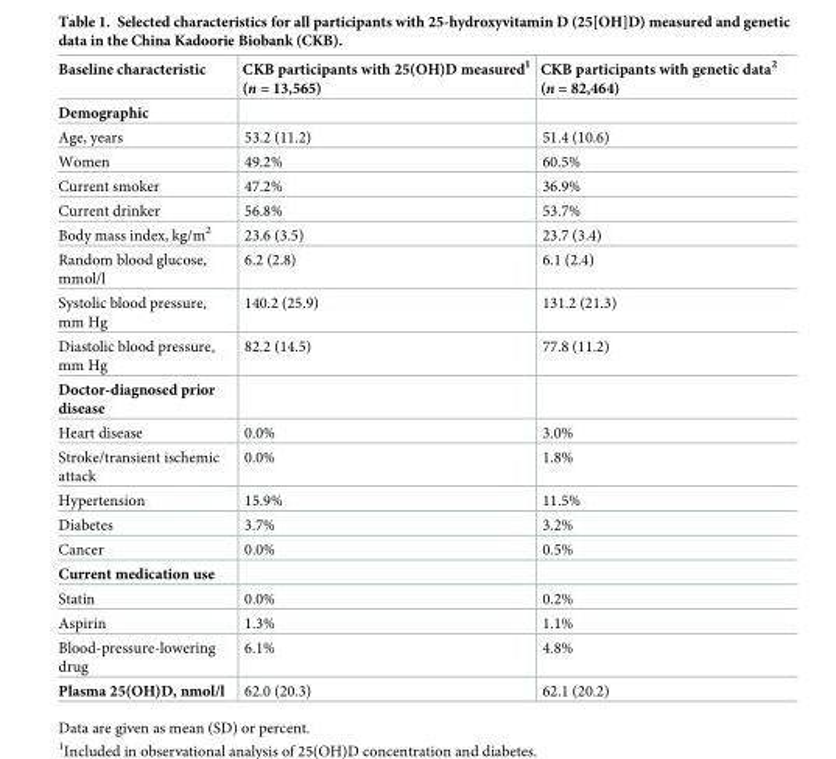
<table><thead><tr><td>Baseline characteristic</td><td>CKB participants with 25(OH)D measured<sup>1</sup> (n = 13,565)</td><td>CKB participants with genetic data<sup>2</sup> (n = 82,464)</td></tr></thead><tbody><tr><td colspan="3">Demographic</td></tr><tr><td>Age, years</td><td>53.2 (11.2)</td><td>51.4 (10.6)</td></tr><tr><td>Women</td><td>49.2%</td><td>60.5%</td></tr><tr><td>Current smoker</td><td>47.2%</td><td>36.9%</td></tr><tr><td>Current drinker</td><td>56.8%</td><td>53.7%</td></tr><tr><td>Body mass index, kg/m<sup>2</sup></td><td>23.6 (3.5)</td><td>23.7 (3.4)</td></tr><tr><td>Random blood glucose, mmol/l</td><td>6.2 (2.8)</td><td>6.1 (2.4)</td></tr><tr><td>Systolic blood pressure, mm Hg</td><td>140.2 (25.9)</td><td>131.2 (21.3)</td></tr><tr><td>Diastolic blood pressure, mm Hg</td><td>82.2 (14.5)</td><td>77.8 (11.2)</td></tr><tr><td colspan="3">Doctor-diagnosed prior disease</td></tr><tr><td>Heart disease</td><td>0.0%</td><td>3.0%</td></tr><tr><td>Stroke/transient ischemic attack</td><td>0.0%</td><td>1.8%</td></tr><tr><td>Hypertension</td><td>15.9%</td><td>11.5%</td></tr><tr><td>Diabetes</td><td>3.7%</td><td>3.2%</td></tr><tr><td>Cancer</td><td>0.0%</td><td>0.5%</td></tr><tr><td colspan="3">Current medication use</td></tr><tr><td>Statin</td><td>0.0%</td><td>0.2%</td></tr><tr><td>Aspirin</td><td>1.3%</td><td>1.1%</td></tr><tr><td>Blood-pressure-lowering drug</td><td>6.1%</td><td>4.8%</td></tr><tr><td>Plasma 25(OH)D, nmol/l</td><td>62.0 (20.3)</td><td>62.1 (20.2)</td></tr></tbody></table>